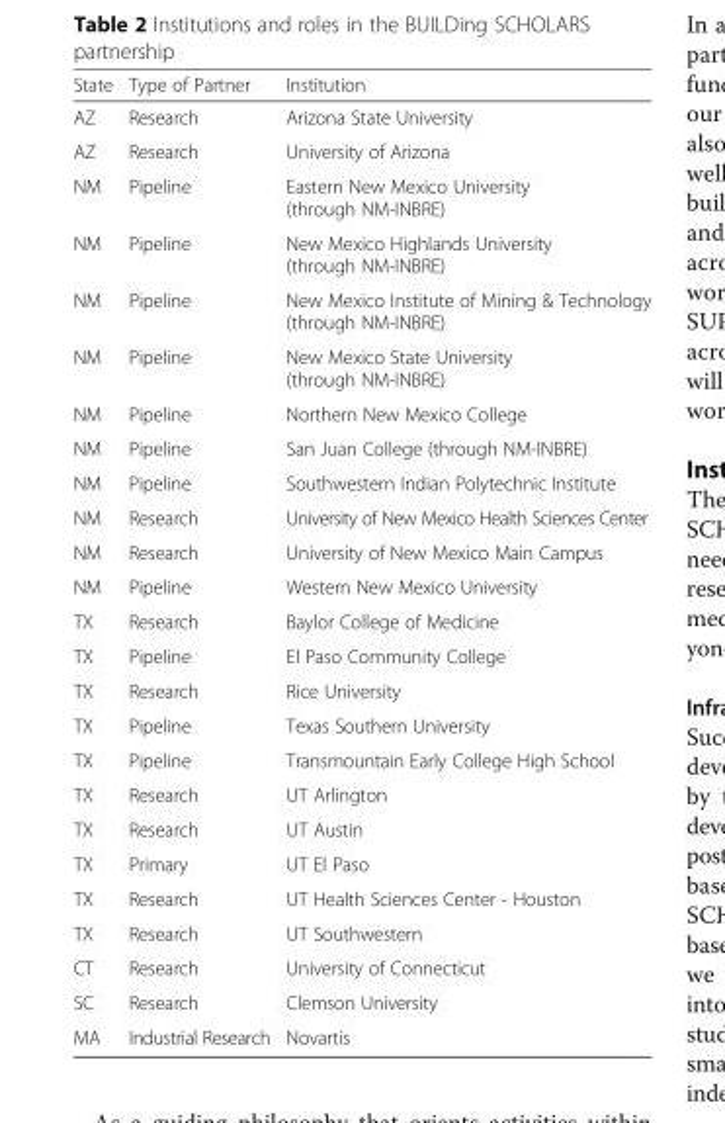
<table><thead><tr><td>State</td><td>Type of Partner</td><td>Institution</td></tr></thead><tbody><tr><td>AZ</td><td>Research</td><td>Arizona State University</td></tr><tr><td>AZ</td><td>Research</td><td>University of Arizona</td></tr><tr><td>NM</td><td>Pipeline</td><td>Eastern New Mexico University (through NM-INBRE)</td></tr><tr><td>NM</td><td>Pipeline</td><td>New Mexico Highlands University (through NM-INBRE)</td></tr><tr><td>NM</td><td>Pipeline</td><td>New Mexico Institute of Mining &amp; Technology (through NM-INBRE)</td></tr><tr><td>NM</td><td>Pipeline</td><td>New Mexico State University (through NM-INBRE)</td></tr><tr><td>NM</td><td>Pipeline</td><td>Northern New Mexico College</td></tr><tr><td>NM</td><td>Pipeline</td><td>San Juan College (through NM-INBRE)</td></tr><tr><td>NM</td><td>Pipeline</td><td>Southwestern Indian Polytechnic Institute</td></tr><tr><td>NM</td><td>Research</td><td>University of New Mexico Health Sciences Center</td></tr><tr><td>NM</td><td>Research</td><td>University of New Mexico Main Campus</td></tr><tr><td>NM</td><td>Pipeline</td><td>Western New Mexico University</td></tr><tr><td>TX</td><td>Research</td><td>Baylor College of Medicine</td></tr><tr><td>TX</td><td>Pipeline</td><td>El Paso Community College</td></tr><tr><td>TX</td><td>Research</td><td>Rice University</td></tr><tr><td>TX</td><td>Pipeline</td><td>Texas Southern University</td></tr><tr><td>TX</td><td>Pipeline</td><td>Transmountain Early College High School</td></tr><tr><td>TX</td><td>Research</td><td>UT Arlington</td></tr><tr><td>TX</td><td>Research</td><td>UT Austin</td></tr><tr><td>TX</td><td>Primary</td><td>UT El Paso</td></tr><tr><td>TX</td><td>Research</td><td>UT Health Sciences Center - Houston</td></tr><tr><td>TX</td><td>Research</td><td>UT Southwestern</td></tr><tr><td>CT</td><td>Research</td><td>University of Connecticut</td></tr><tr><td>SC</td><td>Research</td><td>Clemson University</td></tr><tr><td>MA</td><td>Industrial Research</td><td>Novartis</td></tr></tbody></table>